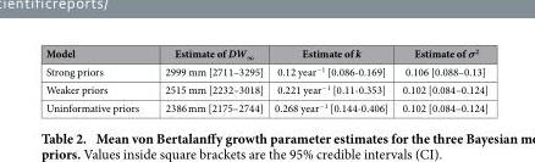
<table><thead><tr><td>Model</td><td>Estimate of DW<sub>∞</sub></td><td>Estimate of k</td><td>Estimate of σ<sup>2</sup></td></tr></thead><tbody><tr><td>Strong priors</td><td>2999 mm [2711–3295]</td><td>0.12 year<sup>−1</sup> [0.086-0.169]</td><td>0.106 [0.088–0.13]</td></tr><tr><td>Weaker priors</td><td>2515 mm [2232–3018]</td><td>0.221 year<sup>−1</sup> [0.11-0.353]</td><td>0.102 [0.084–0.124]</td></tr><tr><td>Uninformative priors</td><td>2386 mm [2175–2744]</td><td>0.268 year<sup>−1</sup> [0.144-0.406]</td><td>0.102 [0.084–0.124]</td></tr></tbody></table>